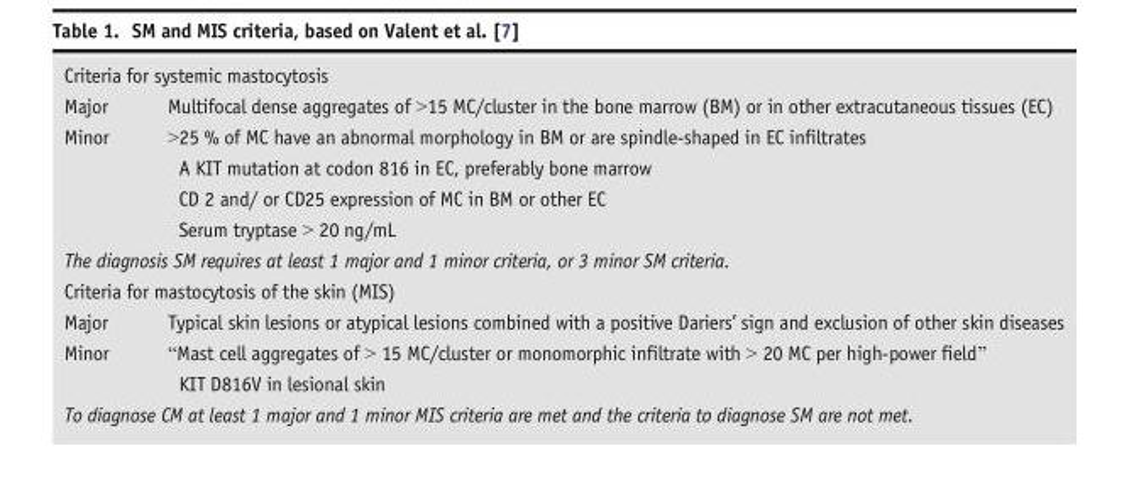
<table><tbody><tr><td colspan="2">Criteria for systemic mastocytosis</td></tr><tr><td>Major</td><td>Multifocal dense aggregates of &gt;15 MC/cluster in the bone marrow (BM) or in other extracutaneous tissues (EC)</td></tr><tr><td rowspan="4">Minor</td><td>&gt;25 % of MC have an abnormal morphology in BM or are spindle-shaped in EC infiltrates</td></tr><tr><td>A KIT mutation at codon 816 in EC, preferably bone marrow</td></tr><tr><td>CD 2 and/ or CD25 expression of MC in BM or other EC</td></tr><tr><td>Serum tryptase &gt; 20 ng/mL</td></tr><tr><td colspan="2">The diagnosis SM requires at least 1 major and 1 minor criteria, or 3 minor SM criteria.</td></tr><tr><td colspan="2">Criteria for mastocytosis of the skin (MIS)</td></tr><tr><td>Major</td><td>Typical skin lesions or atypical lesions combined with a positive Dariers’ sign and exclusion of other skin diseases</td></tr><tr><td rowspan="2">Minor</td><td>“Mast cell aggregates of &gt; 15 MC/cluster or monomorphic infiltrate with &gt; 20 MC per high-power field”</td></tr><tr><td>KIT D816V in lesional skin</td></tr><tr><td colspan="2">To diagnose CM at least 1 major and 1 minor MIS criteria are met and the criteria to diagnose SM are not met.</td></tr></tbody></table>